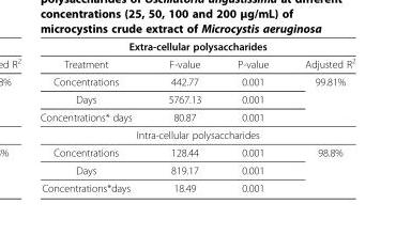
<table><thead><tr><td colspan="4">Extra-cellular polysaccharides</td></tr><tr><td>Treatment</td><td>F-value</td><td>P-value</td><td>Adjusted R<sup>2</sup></td></tr></thead><tbody><tr><td>Concentrations</td><td>442.77</td><td>0.001</td><td rowspan="3">99.81%</td></tr><tr><td>Days</td><td>5767.13</td><td>0.001</td></tr><tr><td>Concentrations* days</td><td>80.87</td><td>0.001</td></tr><tr><td colspan="4">Intra-cellular polysaccharides</td></tr><tr><td>Concentrations</td><td>128.44</td><td>0.001</td><td rowspan="3">98.8%</td></tr><tr><td>Days</td><td>819.17</td><td>0.001</td></tr><tr><td>Concentrations*days</td><td>18.49</td><td>0.001</td></tr></tbody></table>